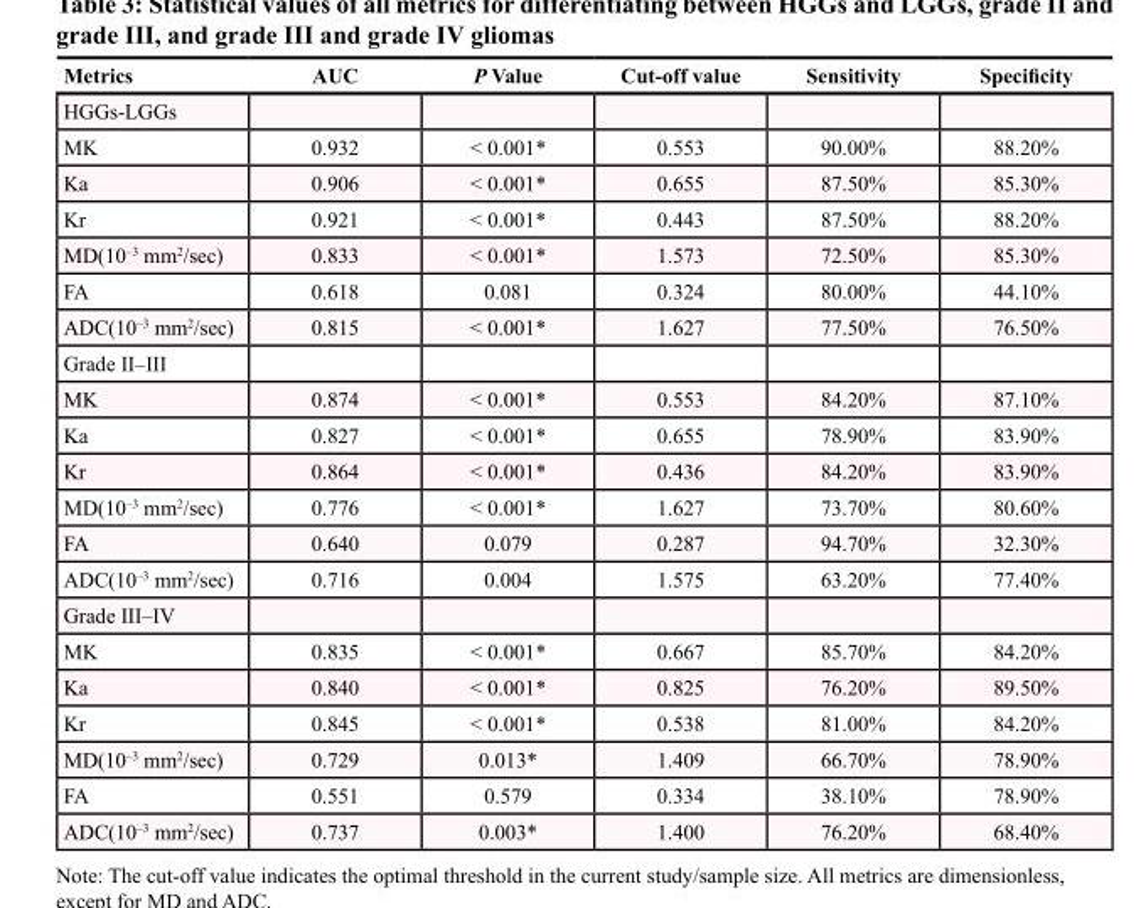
<table><thead><tr><td>Metrics</td><td>AUC</td><td>P Value</td><td>Cut-off value</td><td>Sensitivity</td><td>Specificity</td></tr></thead><tbody><tr><td colspan="6">HGGs-LGGs</td></tr><tr><td>MK</td><td>0.932</td><td>&lt; 0.001*</td><td>0.553</td><td>90.00%</td><td>88.20%</td></tr><tr><td>Ka</td><td>0.906</td><td>&lt; 0.001*</td><td>0.655</td><td>87.50%</td><td>85.30%</td></tr><tr><td>Kr</td><td>0.921</td><td>&lt; 0.001*</td><td>0.443</td><td>87.50%</td><td>88.20%</td></tr><tr><td>MD(10<sup>–3</sup> mm<sup>2</sup>/sec)</td><td>0.833</td><td>&lt; 0.001*</td><td>1.573</td><td>72.50%</td><td>85.30%</td></tr><tr><td>FA</td><td>0.618</td><td>0.081</td><td>0.324</td><td>80.00%</td><td>44.10%</td></tr><tr><td>ADC(10<sup>–3</sup> mm<sup>2</sup>/sec)</td><td>0.815</td><td>&lt; 0.001*</td><td>1.627</td><td>77.50%</td><td>76.50%</td></tr><tr><td colspan="6">Grade II–III</td></tr><tr><td>MK</td><td>0.874</td><td>&lt; 0.001*</td><td>0.553</td><td>84.20%</td><td>87.10%</td></tr><tr><td>Ka</td><td>0.827</td><td>&lt; 0.001*</td><td>0.655</td><td>78.90%</td><td>83.90%</td></tr><tr><td>Kr</td><td>0.864</td><td>&lt; 0.001*</td><td>0.436</td><td>84.20%</td><td>83.90%</td></tr><tr><td>MD(10<sup>–3</sup> mm<sup>2</sup>/sec)</td><td>0.776</td><td>&lt; 0.001*</td><td>1.627</td><td>73.70%</td><td>80.60%</td></tr><tr><td>FA</td><td>0.640</td><td>0.079</td><td>0.287</td><td>94.70%</td><td>32.30%</td></tr><tr><td>ADC(10<sup>–3</sup> mm<sup>2</sup>/sec)</td><td>0.716</td><td>0.004</td><td>1.575</td><td>63.20%</td><td>77.40%</td></tr><tr><td colspan="6">Grade III–IV</td></tr><tr><td>MK</td><td>0.835</td><td>&lt; 0.001*</td><td>0.667</td><td>85.70%</td><td>84.20%</td></tr><tr><td>Ka</td><td>0.840</td><td>&lt; 0.001*</td><td>0.825</td><td>76.20%</td><td>89.50%</td></tr><tr><td>Kr</td><td>0.845</td><td>&lt; 0.001*</td><td>0.538</td><td>81.00%</td><td>84.20%</td></tr><tr><td>MD(10<sup>–3</sup> mm<sup>2</sup>/sec)</td><td>0.729</td><td>0.013*</td><td>1.409</td><td>66.70%</td><td>78.90%</td></tr><tr><td>FA</td><td>0.551</td><td>0.579</td><td>0.334</td><td>38.10%</td><td>78.90%</td></tr><tr><td>ADC(10<sup>–3</sup> mm<sup>2</sup>/sec)</td><td>0.737</td><td>0.003*</td><td>1.400</td><td>76.20%</td><td>68.40%</td></tr></tbody></table>